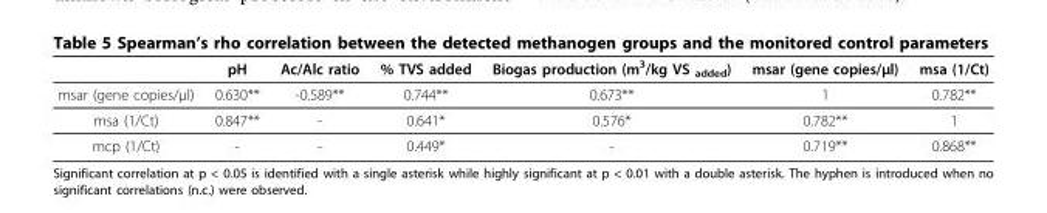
<table><thead><tr><td></td><td>pH</td><td>Ac/Alc ratio</td><td>% TVS added</td><td>Biogas production (m<sup>3</sup>/kg VS <sub>added</sub>)</td><td>msar (gene copies/μl)</td><td>msa (1/Ct)</td></tr></thead><tbody><tr><td>msar (gene copies/μl)</td><td>0.630**</td><td>-0.589**</td><td>0.744**</td><td>0.673**</td><td>1</td><td>0.782**</td></tr><tr><td>msa (1/Ct)</td><td>0.847**</td><td>-</td><td>0.641*</td><td>0.576*</td><td>0.782**</td><td>1</td></tr><tr><td>mcp (1/Ct)</td><td>-</td><td>-</td><td>0.449*</td><td>-</td><td>0.719**</td><td>0.868**</td></tr></tbody></table>